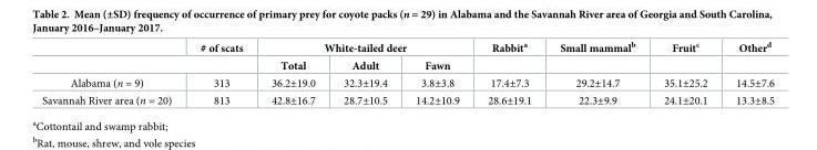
<table><thead><tr><td rowspan="2"></td><td rowspan="2"># of scats</td><td colspan="3">White-tailed deer</td><td rowspan="2">Rabbit<sup>a</sup></td><td rowspan="2">Small mammal<sup>b</sup></td><td rowspan="2">Fruit<sup>c</sup></td><td rowspan="2">Other<sup>d</sup></td></tr><tr><td>Total</td><td>Adult</td><td>Fawn</td></tr></thead><tbody><tr><td>Alabama (n = 9)</td><td>313</td><td>36.2±19.0</td><td>32.3±19.4</td><td>3.8±3.8</td><td>17.4±7.3</td><td>29.2±14.7</td><td>35.1±25.2</td><td>14.5±7.6</td></tr><tr><td>Savannah River area (n = 20)</td><td>813</td><td>42.8±16.7</td><td>28.7±10.5</td><td>14.2±10.9</td><td>28.6±19.1</td><td>22.3±9.9</td><td>24.1±20.1</td><td>13.3±8.5</td></tr></tbody></table>